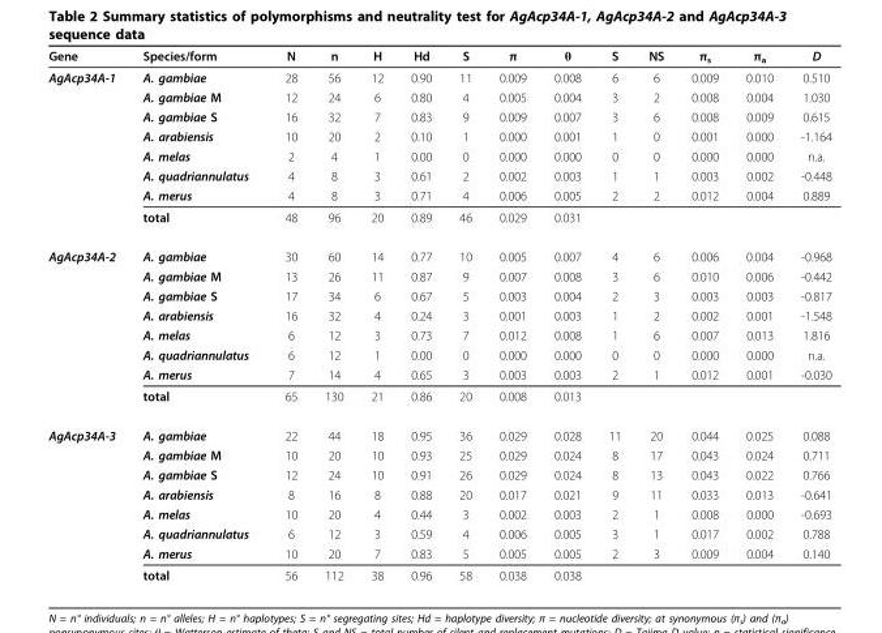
<table><thead><tr><td>Gene</td><td>Species/form</td><td>N</td><td>n</td><td>H</td><td>Hd</td><td>S</td><td>π</td><td>θ</td><td>S</td><td>NS</td><td>π<sub>s</sub></td><td>π<sub>a</sub></td><td>D</td></tr></thead><tbody><tr><td rowspan="8">AgAcp34A-1</td><td>A. gambiae</td><td>28</td><td>56</td><td>12</td><td>0.90</td><td>11</td><td>0.009</td><td>0.008</td><td>6</td><td>6</td><td>0.009</td><td>0.010</td><td>0.510</td></tr><tr><td>A. gambiae M</td><td>12</td><td>24</td><td>6</td><td>0.80</td><td>4</td><td>0.005</td><td>0.004</td><td>3</td><td>2</td><td>0.008</td><td>0.004</td><td>1.030</td></tr><tr><td>A. gambiae S</td><td>16</td><td>32</td><td>7</td><td>0.83</td><td>9</td><td>0.009</td><td>0.007</td><td>3</td><td>6</td><td>0.008</td><td>0.009</td><td>0.615</td></tr><tr><td>A. arabiensis</td><td>10</td><td>20</td><td>2</td><td>0.10</td><td>1</td><td>0.000</td><td>0.001</td><td>1</td><td>0</td><td>0.001</td><td>0.000</td><td>-1.164</td></tr><tr><td>A. melas</td><td>2</td><td>4</td><td>1</td><td>0.00</td><td>0</td><td>0.000</td><td>0.000</td><td>0</td><td>0</td><td>0.000</td><td>0.000</td><td>n.a.</td></tr><tr><td>A. quadriannulatus</td><td>4</td><td>8</td><td>3</td><td>0.61</td><td>2</td><td>0.002</td><td>0.003</td><td>1</td><td>1</td><td>0.003</td><td>0.002</td><td>-0.448</td></tr><tr><td>A. merus</td><td>4</td><td>8</td><td>3</td><td>0.71</td><td>4</td><td>0.006</td><td>0.005</td><td>2</td><td>2</td><td>0.012</td><td>0.004</td><td>0.889</td></tr><tr><td>total</td><td>48</td><td>96</td><td>20</td><td>0.89</td><td>46</td><td>0.029</td><td>0.031</td><td></td><td></td><td></td><td></td><td></td></tr><tr><td rowspan="8">AgAcp34A-2</td><td>A. gambiae</td><td>30</td><td>60</td><td>14</td><td>0.77</td><td>10</td><td>0.005</td><td>0.007</td><td>4</td><td>6</td><td>0.006</td><td>0.004</td><td>-0.968</td></tr><tr><td>A. gambiae M</td><td>13</td><td>26</td><td>11</td><td>0.87</td><td>9</td><td>0.007</td><td>0.008</td><td>3</td><td>6</td><td>0.010</td><td>0.006</td><td>-0.442</td></tr><tr><td>A. gambiae S</td><td>17</td><td>34</td><td>6</td><td>0.67</td><td>5</td><td>0.003</td><td>0.004</td><td>2</td><td>3</td><td>0.003</td><td>0.003</td><td>-0.817</td></tr><tr><td>A. arabiensis</td><td>16</td><td>32</td><td>4</td><td>0.24</td><td>3</td><td>0.001</td><td>0.003</td><td>1</td><td>2</td><td>0.002</td><td>0.001</td><td>-1.548</td></tr><tr><td>A. melas</td><td>6</td><td>12</td><td>3</td><td>0.73</td><td>7</td><td>0.012</td><td>0.008</td><td>1</td><td>6</td><td>0.007</td><td>0.013</td><td>1.816</td></tr><tr><td>A. quadriannulatus</td><td>6</td><td>12</td><td>1</td><td>0.00</td><td>0</td><td>0.000</td><td>0.000</td><td>0</td><td>0</td><td>0.000</td><td>0.000</td><td>n.a.</td></tr><tr><td>A. merus</td><td>7</td><td>14</td><td>4</td><td>0.65</td><td>3</td><td>0.003</td><td>0.003</td><td>2</td><td>1</td><td>0.012</td><td>0.001</td><td>-0.030</td></tr><tr><td>total</td><td>65</td><td>130</td><td>21</td><td>0.86</td><td>20</td><td>0.008</td><td>0.013</td><td></td><td></td><td></td><td></td><td></td></tr><tr><td rowspan="8">AgAcp34A-3</td><td>A. gambiae</td><td>22</td><td>44</td><td>18</td><td>0.95</td><td>36</td><td>0.029</td><td>0.028</td><td>11</td><td>20</td><td>0.044</td><td>0.025</td><td>0.088</td></tr><tr><td>A. gambiae M</td><td>10</td><td>20</td><td>10</td><td>0.93</td><td>25</td><td>0.029</td><td>0.024</td><td>8</td><td>17</td><td>0.043</td><td>0.024</td><td>0.711</td></tr><tr><td>A. gambiae S</td><td>12</td><td>24</td><td>10</td><td>0.91</td><td>26</td><td>0.029</td><td>0.024</td><td>8</td><td>13</td><td>0.043</td><td>0.022</td><td>0.766</td></tr><tr><td>A. arabiensis</td><td>8</td><td>16</td><td>8</td><td>0.88</td><td>20</td><td>0.017</td><td>0.021</td><td>9</td><td>11</td><td>0.033</td><td>0.013</td><td>-0.641</td></tr><tr><td>A. melas</td><td>10</td><td>20</td><td>4</td><td>0.44</td><td>3</td><td>0.002</td><td>0.003</td><td>2</td><td>1</td><td>0.008</td><td>0.000</td><td>-0.693</td></tr><tr><td>A. quadriannulatus</td><td>6</td><td>12</td><td>3</td><td>0.59</td><td>4</td><td>0.006</td><td>0.005</td><td>3</td><td>1</td><td>0.017</td><td>0.002</td><td>0.788</td></tr><tr><td>A. merus</td><td>10</td><td>20</td><td>7</td><td>0.83</td><td>5</td><td>0.005</td><td>0.005</td><td>2</td><td>3</td><td>0.009</td><td>0.004</td><td>0.140</td></tr><tr><td>total</td><td>56</td><td>112</td><td>38</td><td>0.96</td><td>58</td><td>0.038</td><td>0.038</td><td></td><td></td><td></td><td></td><td></td></tr></tbody></table>